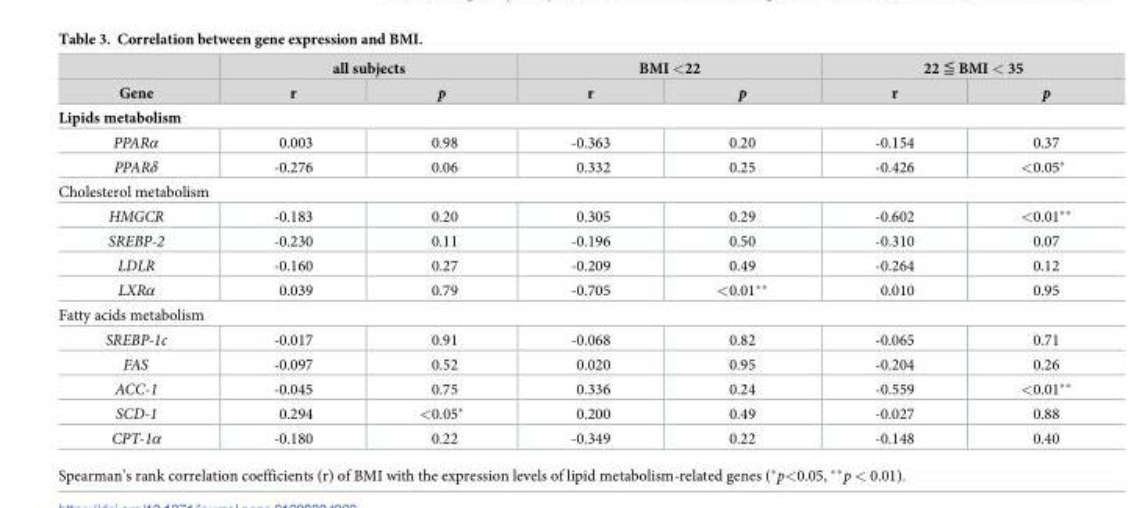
<table><thead><tr><td rowspan="2">Gene</td><td colspan="2">all subjects</td><td colspan="2">BMI &lt;22</td><td colspan="2">22 ≦ BMI &lt; 35</td></tr><tr><td>r</td><td>p</td><td>r</td><td>p</td><td>r</td><td>p</td></tr></thead><tbody><tr><td colspan="7">Lipids metabolism</td></tr><tr><td>PPARα</td><td>0.003</td><td>0.98</td><td>-0.363</td><td>0.20</td><td>-0.154</td><td>0.37</td></tr><tr><td>PPARδ</td><td>-0.276</td><td>0.06</td><td>0.332</td><td>0.25</td><td>-0.426</td><td>&lt;0.05*</td></tr><tr><td colspan="7">Cholesterol metabolism</td></tr><tr><td>HMGCR</td><td>-0.183</td><td>0.20</td><td>0.305</td><td>0.29</td><td>-0.602</td><td>&lt;0.01**</td></tr><tr><td>SREBP-2</td><td>-0.230</td><td>0.11</td><td>-0.196</td><td>0.50</td><td>-0.310</td><td>0.07</td></tr><tr><td>LDLR</td><td>-0.160</td><td>0.27</td><td>-0.209</td><td>0.49</td><td>-0.264</td><td>0.12</td></tr><tr><td>LXRα</td><td>0.039</td><td>0.79</td><td>-0.705</td><td>&lt;0.01**</td><td>0.010</td><td>0.95</td></tr><tr><td colspan="7">Fatty acids metabolism</td></tr><tr><td>SREBP-1c</td><td>-0.017</td><td>0.91</td><td>-0.068</td><td>0.82</td><td>-0.065</td><td>0.71</td></tr><tr><td>FAS</td><td>-0.097</td><td>0.52</td><td>0.020</td><td>0.95</td><td>-0.204</td><td>0.26</td></tr><tr><td>ACC-1</td><td>-0.045</td><td>0.75</td><td>0.336</td><td>0.24</td><td>-0.559</td><td>&lt;0.01**</td></tr><tr><td>SCD-1</td><td>0.294</td><td>&lt;0.05*</td><td>0.200</td><td>0.49</td><td>-0.027</td><td>0.88</td></tr><tr><td>CPT-1α</td><td>-0.180</td><td>0.22</td><td>-0.349</td><td>0.22</td><td>-0.148</td><td>0.40</td></tr></tbody></table>